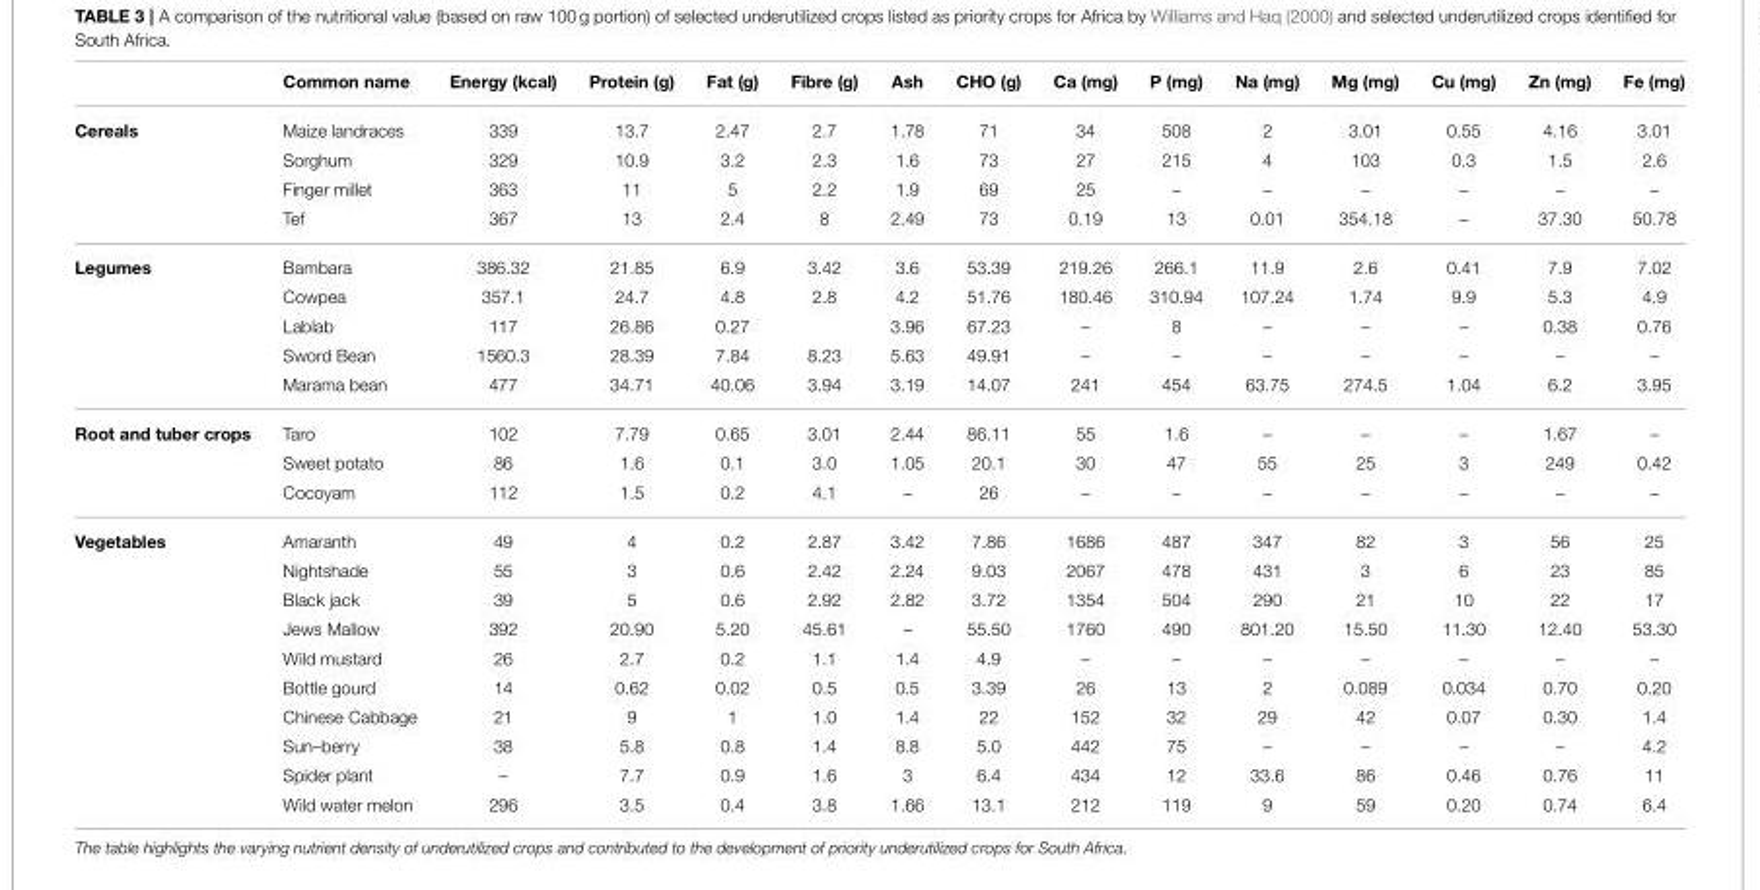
<table><thead><tr><td></td><td>Common name</td><td>Energy (kcal)</td><td>Protein (g)</td><td>Fat (g)</td><td>Fibre (g)</td><td>Ash</td><td>CHO (g)</td><td>Ca (mg)</td><td>P (mg)</td><td>Na (mg)</td><td>Mg (mg)</td><td>Cu (mg)</td><td>Zn (mg)</td><td>Fe (mg)</td></tr></thead><tbody><tr><td rowspan="4">Cereals</td><td>Maize landraces</td><td>339</td><td>13.7</td><td>2.47</td><td>2.7</td><td>1.78</td><td>71</td><td>34</td><td>508</td><td>2</td><td>3.01</td><td>0.55</td><td>4.16</td><td>3.01</td></tr><tr><td>Sorghum</td><td>329</td><td>10.9</td><td>3.2</td><td>2.3</td><td>1.6</td><td>73</td><td>27</td><td>215</td><td>4</td><td>103</td><td>0.3</td><td>1.5</td><td>2.6</td></tr><tr><td>Finger millet</td><td>363</td><td>11</td><td>5</td><td>2.2</td><td>1.9</td><td>69</td><td>25</td><td>–</td><td>–</td><td>–</td><td>–</td><td>–</td><td>–</td></tr><tr><td>Tef</td><td>367</td><td>13</td><td>2.4</td><td>8</td><td>2.49</td><td>73</td><td>0.19</td><td>13</td><td>0.01</td><td>354.18</td><td>–</td><td>37.30</td><td>50.78</td></tr><tr><td rowspan="5">Legumes</td><td>Bambara</td><td>386.32</td><td>21.85</td><td>6.9</td><td>3.42</td><td>3.6</td><td>53.39</td><td>219.26</td><td>266.1</td><td>11.9</td><td>2.6</td><td>0.41</td><td>7.9</td><td>7.02</td></tr><tr><td>Cowpea</td><td>357.1</td><td>24.7</td><td>4.8</td><td>2.8</td><td>4.2</td><td>51.76</td><td>180.46</td><td>310.94</td><td>107.24</td><td>1.74</td><td>9.9</td><td>5.3</td><td>4.9</td></tr><tr><td>Lablab</td><td>117</td><td>26.86</td><td>0.27</td><td></td><td>3.96</td><td>67.23</td><td>–</td><td>8</td><td>–</td><td>–</td><td>–</td><td>0.38</td><td>0.76</td></tr><tr><td>Sword Bean</td><td>1560.3</td><td>28.39</td><td>7.84</td><td>8.23</td><td>5.63</td><td>49.91</td><td>–</td><td>–</td><td>–</td><td>–</td><td>–</td><td>–</td><td>–</td></tr><tr><td>Marama bean</td><td>477</td><td>34.71</td><td>40.06</td><td>3.94</td><td>3.19</td><td>14.07</td><td>241</td><td>454</td><td>63.75</td><td>274.5</td><td>1.04</td><td>6.2</td><td>3.95</td></tr><tr><td rowspan="3">Root and tuber crops</td><td>Taro</td><td>102</td><td>7.79</td><td>0.65</td><td>3.01</td><td>2.44</td><td>86.11</td><td>55</td><td>1.6</td><td>–</td><td>–</td><td>–</td><td>1.67</td><td>–</td></tr><tr><td>Sweet potato</td><td>86</td><td>1.6</td><td>0.1</td><td>3.0</td><td>1.05</td><td>20.1</td><td>30</td><td>47</td><td>55</td><td>25</td><td>3</td><td>249</td><td>0.42</td></tr><tr><td>Cocoyam</td><td>112</td><td>1.5</td><td>0.2</td><td>4.1</td><td>–</td><td>26</td><td>–</td><td>–</td><td>–</td><td>–</td><td>–</td><td>–</td><td>–</td></tr><tr><td rowspan="10">Vegetables</td><td>Amaranth</td><td>49</td><td>4</td><td>0.2</td><td>2.87</td><td>3.42</td><td>7.86</td><td>1686</td><td>487</td><td>347</td><td>82</td><td>3</td><td>56</td><td>25</td></tr><tr><td>Nightshade</td><td>55</td><td>3</td><td>0.6</td><td>2.42</td><td>2.24</td><td>9.03</td><td>2067</td><td>478</td><td>431</td><td>3</td><td>6</td><td>23</td><td>85</td></tr><tr><td>Black jack</td><td>39</td><td>5</td><td>0.6</td><td>2.92</td><td>2.82</td><td>3.72</td><td>1354</td><td>504</td><td>290</td><td>21</td><td>10</td><td>22</td><td>17</td></tr><tr><td>Jews Mallow</td><td>392</td><td>20.90</td><td>5.20</td><td>45.61</td><td>–</td><td>55.50</td><td>1760</td><td>490</td><td>801.20</td><td>15.50</td><td>11.30</td><td>12.40</td><td>53.30</td></tr><tr><td>Wild mustard</td><td>26</td><td>2.7</td><td>0.2</td><td>1.1</td><td>1.4</td><td>4.9</td><td>–</td><td>–</td><td>–</td><td>–</td><td>–</td><td>–</td><td>–</td></tr><tr><td>Bottle gourd</td><td>14</td><td>0.62</td><td>0.02</td><td>0.5</td><td>0.5</td><td>3.39</td><td>26</td><td>13</td><td>2</td><td>0.089</td><td>0.034</td><td>0.70</td><td>0.20</td></tr><tr><td>Chinese Cabbage</td><td>21</td><td>9</td><td>1</td><td>1.0</td><td>1.4</td><td>22</td><td>152</td><td>32</td><td>29</td><td>42</td><td>0.07</td><td>0.30</td><td>1.4</td></tr><tr><td>Sun–berry</td><td>38</td><td>5.8</td><td>0.8</td><td>1.4</td><td>8.8</td><td>5.0</td><td>442</td><td>75</td><td>–</td><td>–</td><td>–</td><td>–</td><td>4.2</td></tr><tr><td>Spider plant</td><td>–</td><td>7.7</td><td>0.9</td><td>1.6</td><td>3</td><td>6.4</td><td>434</td><td>12</td><td>33.6</td><td>86</td><td>0.46</td><td>0.76</td><td>11</td></tr><tr><td>Wild water melon</td><td>296</td><td>3.5</td><td>0.4</td><td>3.8</td><td>1.66</td><td>13.1</td><td>212</td><td>119</td><td>9</td><td>59</td><td>0.20</td><td>0.74</td><td>6.4</td></tr></tbody></table>